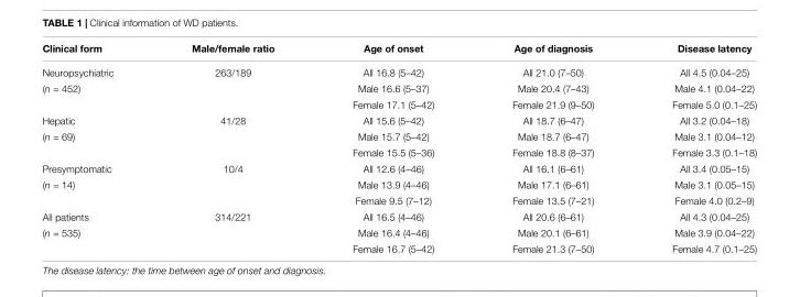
<table><thead><tr><td>Clinical form</td><td>Male/female ratio</td><td>Age of onset</td><td>Age of diagnosis</td><td>Disease latency</td></tr></thead><tbody><tr><td>Neuropsychiatric</td><td>263/189</td><td>All 16.8 (5–42)</td><td>All 21.0 (7–50)</td><td>All 4.5 (0.04–25)</td></tr><tr><td rowspan="2">(n = 452)</td><td></td><td>Male 16.6 (5–37)</td><td>Male 20.4 (7–43)</td><td>Male 4.1 (0.04–22)</td></tr><tr><td></td><td>Female 17.1 (5–42)</td><td>Female 21.9 (9–50)</td><td>Female 5.0 (0.1–25)</td></tr><tr><td>Hepatic</td><td>41/28</td><td>All 15.6 (5–42)</td><td>All 18.7 (6–47)</td><td>All 3.2 (0.04–18)</td></tr><tr><td rowspan="2">(n = 69)</td><td></td><td>Male 15.7 (5–42)</td><td>Male 18.7 (6–47)</td><td>Male 3.1 (0.04–12)</td></tr><tr><td></td><td>Female 15.5 (5–36)</td><td>Female 18.8 (8–37)</td><td>Female 3.3 (0.1–18)</td></tr><tr><td>Presymptomatic</td><td>10/4</td><td>All 12.6 (4–46)</td><td>All 16.1 (6–61)</td><td>All 3.4 (0.05–15)</td></tr><tr><td rowspan="2">(n = 14)</td><td></td><td>Male 13.9 (4–46)</td><td>Male 17.1 (6–61)</td><td>Male 3.1 (0.05–15)</td></tr><tr><td></td><td>Female 9.5 (7–12)</td><td>Female 13.5 (7–21)</td><td>Female 4.0 (0.2–9)</td></tr><tr><td>All patients</td><td>314/221</td><td>All 16.5 (4–46)</td><td>All 20.6 (6–61)</td><td>All 4.3 (0.04–25)</td></tr><tr><td rowspan="2">(n = 535)</td><td></td><td>Male 16.4 (4–46)</td><td>Male 20.1 (6–61)</td><td>Male 3.9 (0.04–22)</td></tr><tr><td></td><td>Female 16.7 (5–42)</td><td>Female 21.3 (7–50)</td><td>Female 4.7 (0.1–25)</td></tr></tbody></table>